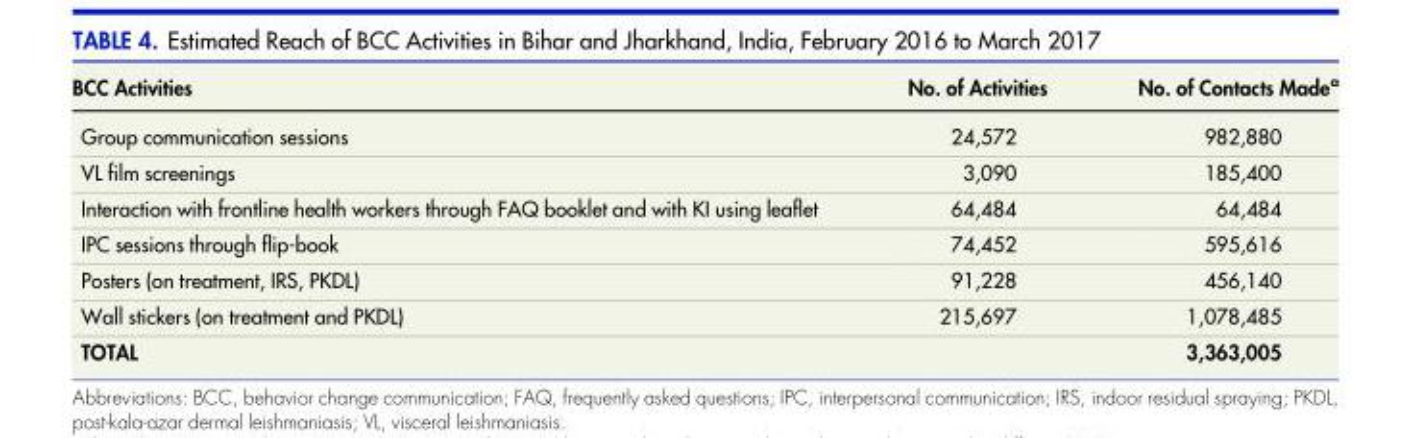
<table><thead><tr><td>BCC Activities</td><td>No. of Activities</td><td>No. of Contacts Made<sup>a</sup></td></tr></thead><tbody><tr><td>Group communication sessions</td><td>24,572</td><td>982,880</td></tr><tr><td>VL film screenings</td><td>3,090</td><td>185,400</td></tr><tr><td>Interaction with frontline health workers through FAQ booklet and with KI using leaflet</td><td>64,484</td><td>64,484</td></tr><tr><td>IPC sessions through flip-book</td><td>74,452</td><td>595,616</td></tr><tr><td>Posters (on treatment, IRS, PKDL)</td><td>91,228</td><td>456,140</td></tr><tr><td>Wall stickers (on treatment and PKDL)</td><td>215,697</td><td>1,078,485</td></tr><tr><td>TOTAL</td><td></td><td>3,363,005</td></tr></tbody></table>